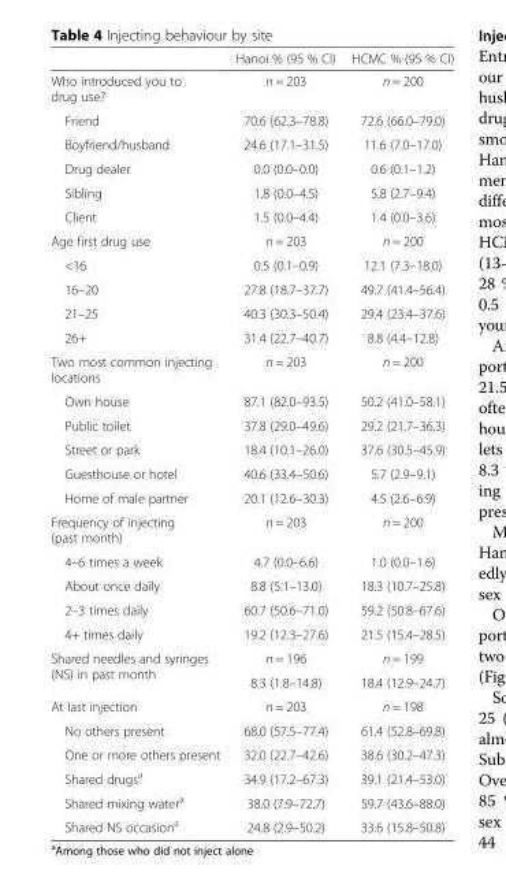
<table><thead><tr><td></td><td>Hanoi % (95 % CI)</td><td>HCMC % (95 % CI)</td></tr></thead><tbody><tr><td>Who introduced you to drug use?</td><td>n = 203</td><td>n = 200</td></tr><tr><td>Friend</td><td>70.6 (62.3–78.8)</td><td>72.6 (66.0–79.0)</td></tr><tr><td>Boyfriend/husband</td><td>24.6 (17.1–31.5)</td><td>11.6 (7.0–17.0)</td></tr><tr><td>Drug dealer</td><td>0.0 (0.0–0.0)</td><td>0.6 (0.1–1.2)</td></tr><tr><td>Sibling</td><td>1.8 (0.0–4.5)</td><td>5.8 (2.7–9.4)</td></tr><tr><td>Client</td><td>1.5 (0.0–4.4)</td><td>1.4 (0.0–3.6)</td></tr><tr><td>Age first drug use</td><td>n = 203</td><td>n = 200</td></tr><tr><td>&lt;16</td><td>0.5 (0.1–0.9)</td><td>12.1 (7.3–18.0)</td></tr><tr><td>16–20</td><td>27.8 (18.7–37.7)</td><td>49.7 (41.4–56.4)</td></tr><tr><td>21–25</td><td>40.3 (30.3–50.4)</td><td>29.4 (23.4–37.6)</td></tr><tr><td>26+</td><td>31.4 (22.7–40.7)</td><td>8.8 (4.4–12.8)</td></tr><tr><td>Two most common injecting locations</td><td>n = 203</td><td>n = 200</td></tr><tr><td>Own house</td><td>87.1 (82.0–93.5)</td><td>50.2 (41.0–58.1)</td></tr><tr><td>Public toilet</td><td>37.8 (29.0–49.6)</td><td>29.2 (21.7–36.3)</td></tr><tr><td>Street or park</td><td>18.4 (10.1–26.0)</td><td>37.6 (30.5–45.9)</td></tr><tr><td>Guesthouse or hotel</td><td>40.6 (33.4–50.6)</td><td>5.7 (2.9–9.1)</td></tr><tr><td>Home of male partner</td><td>20.1 (12.6–30.3)</td><td>4.5 (2.6–6.9)</td></tr><tr><td>Frequency of injecting (past month)</td><td>n = 203</td><td>n = 200</td></tr><tr><td>4–6 times a week</td><td>4.7 (0.0–6.6)</td><td>1.0 (0.0–1.6)</td></tr><tr><td>About once daily</td><td>8.8 (5.1–13.0)</td><td>18.3 (10.7–25.8)</td></tr><tr><td>2–3 times daily</td><td>60.7 (50.6–71.0)</td><td>59.2 (50.8–67.6)</td></tr><tr><td>4+ times daily</td><td>19.2 (12.3–27.6)</td><td>21.5 (15.4–28.5)</td></tr><tr><td rowspan="2">Shared needles and syringes (NS) in past month</td><td>n = 196</td><td>n = 199</td></tr><tr><td>8.3 (1.8–14.8)</td><td>18.4 (12.9–24.7)</td></tr><tr><td>At last injection</td><td>n = 203</td><td>n = 198</td></tr><tr><td>No others present</td><td>68.0 (57.5–77.4)</td><td>61.4 (52.8–69.8)</td></tr><tr><td>One or more others present</td><td>32.0 (22.7–42.6)</td><td>38.6 (30.2–47.3)</td></tr><tr><td>Shared drugs<sup>a</sup></td><td>34.9 (17.2–67.3)</td><td>39.1 (21.4–53.0)</td></tr><tr><td>Shared mixing water<sup>a</sup></td><td>38.0 (7.9–72.7)</td><td>59.7 (43.6–88.0)</td></tr><tr><td>Shared NS occasion<sup>a</sup></td><td>24.8 (2.9–50.2)</td><td>33.6 (15.8–50.8)</td></tr></tbody></table>